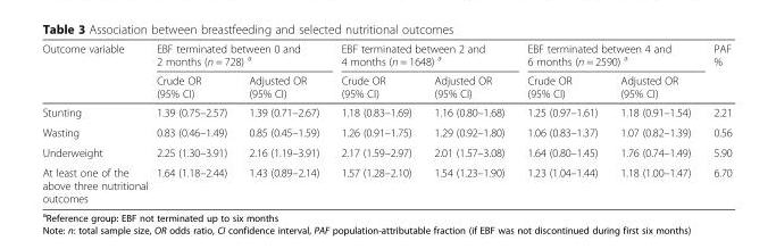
<table><thead><tr><td rowspan="2">Outcome variable</td><td colspan="2">EBF terminated between 0 and 2 months (n = 728) <sup>a</sup></td><td colspan="2">EBF terminated between 2 and 4 months (n = 1648) <sup>a</sup></td><td colspan="2">EBF terminated between 4 and 6 months (n = 2590) <sup>a</sup></td><td rowspan="2">PAF %</td></tr><tr><td>Crude OR (95% CI)</td><td>Adjusted OR (95% CI)</td><td>Crude OR (95% CI)</td><td>Adjusted OR (95% CI)</td><td>Crude OR (95% CI)</td><td>Adjusted OR (95% CI)</td></tr></thead><tbody><tr><td>Stunting</td><td>1.39 (0.75–2.57)</td><td>1.39 (0.71–2.67)</td><td>1.18 (0.83–1.69)</td><td>1.16 (0.80–1.68)</td><td>1.25 (0.97–1.61)</td><td>1.18 (0.91–1.54)</td><td>2.21</td></tr><tr><td>Wasting</td><td>0.83 (0.46–1.49)</td><td>0.85 (0.45–1.59)</td><td>1.26 (0.91–1.75)</td><td>1.29 (0.92–1.80)</td><td>1.06 (0.83–1.37)</td><td>1.07 (0.82–1.39)</td><td>0.56</td></tr><tr><td>Underweight</td><td>2.25 (1.30–3.91)</td><td>2.16 (1.19–3.91)</td><td>2.17 (1.59–2.97)</td><td>2.01 (1.57–3.08)</td><td>1.64 (0.80–1.45)</td><td>1.76 (0.74–1.49)</td><td>5.90</td></tr><tr><td>At least one of the above three nutritional outcomes</td><td>1.64 (1.18–2.44)</td><td>1.43 (0.89–2.14)</td><td>1.57 (1.28–2.10)</td><td>1.54 (1.23–1.90)</td><td>1.23 (1.04–1.44)</td><td>1.18 (1.00–1.47)</td><td>6.70</td></tr></tbody></table>